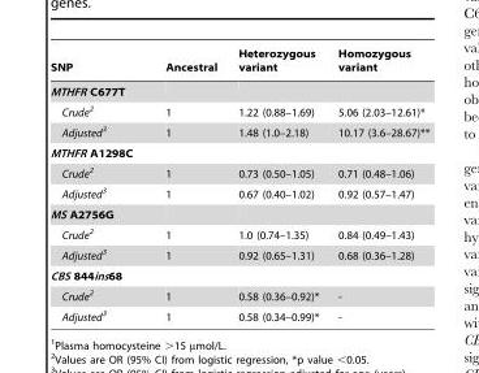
<table><thead><tr><td>SNP</td><td>Ancestral</td><td>Heterozygous variant</td><td>Homozygous variant</td></tr></thead><tbody><tr><td colspan="4">MTHFR C677T</td></tr><tr><td>Crude2</td><td>1</td><td>1.22 (0.88–1.69)</td><td>5.06 (2.03–12.61)*</td></tr><tr><td>Adjusted3</td><td>1</td><td>1.48 (1.0–2.18)</td><td>10.17 (3.6–28.67)**</td></tr><tr><td colspan="4">MTHFR A1298C</td></tr><tr><td>Crude2</td><td>1</td><td>0.73 (0.50–1.05)</td><td>0.71 (0.48–1.06)</td></tr><tr><td>Adjusted3</td><td>1</td><td>0.67 (0.40–1.02)</td><td>0.92 (0.57–1.47)</td></tr><tr><td colspan="4">MS A2756G</td></tr><tr><td>Crude2</td><td>1</td><td>1.0 (0.74–1.35)</td><td>0.84 (0.49–1.43)</td></tr><tr><td>Adjusted3</td><td>1</td><td>0.92 (0.65–1.31)</td><td>0.68 (0.36–1.28)</td></tr><tr><td colspan="4">CBS 844ins68</td></tr><tr><td>Crude2</td><td>1</td><td>0.58 (0.36–0.92)*</td><td>-</td></tr><tr><td>Adjusted3</td><td>1</td><td>0.58 (0.34–0.99)*</td><td>-</td></tr></tbody></table>